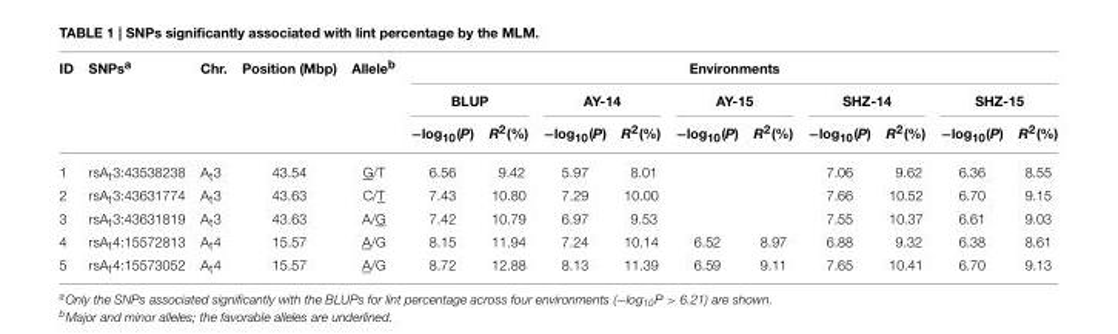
<table><thead><tr><td rowspan="3">ID</td><td rowspan="3">SNPs<sup>a</sup></td><td rowspan="3">Chr.</td><td rowspan="3">Position (Mbp)</td><td rowspan="3">Allele<sup>b</sup></td><td colspan="10">Environments</td></tr><tr><td colspan="2">BLUP</td><td colspan="2">AY-14</td><td colspan="2">AY-15</td><td colspan="2">SHZ-14</td><td colspan="2">SHZ-15</td></tr><tr><td>−log<sub>10</sub>(P)</td><td>R<sup>2</sup>(%)</td><td>−log<sub>10</sub>(P)</td><td>R<sup>2</sup>(%)</td><td>−log<sub>10</sub>(P)</td><td>R<sup>2</sup>(%)</td><td>−log<sub>10</sub>(P)</td><td>R<sup>2</sup>(%)</td><td>−log<sub>10</sub>(P)</td><td>R<sup>2</sup>(%)</td></tr></thead><tbody><tr><td>1</td><td>rsA<sub>t</sub>3:43538238</td><td>A<sub>t</sub>3</td><td>43.54</td><td>G/T</td><td>6.56</td><td>9.42</td><td>5.97</td><td>8.01</td><td></td><td></td><td>7.06</td><td>9.62</td><td>6.36</td><td>8.55</td></tr><tr><td>2</td><td>rsA<sub>t</sub>3:43631774</td><td>A<sub>t</sub>3</td><td>43.63</td><td>C/T</td><td>7.43</td><td>10.80</td><td>7.29</td><td>10.00</td><td></td><td></td><td>7.66</td><td>10.52</td><td>6.70</td><td>9.15</td></tr><tr><td>3</td><td>rsA<sub>t</sub>3:43631819</td><td>A<sub>t</sub>3</td><td>43.63</td><td>A/G</td><td>7.42</td><td>10.79</td><td>6.97</td><td>9.53</td><td></td><td></td><td>7.55</td><td>10.37</td><td>6.61</td><td>9.03</td></tr><tr><td>4</td><td>rsA<sub>t</sub>4:15572813</td><td>A<sub>t</sub>4</td><td>15.57</td><td>A/G</td><td>8.15</td><td>11.94</td><td>7.24</td><td>10.14</td><td>6.52</td><td>8.97</td><td>6.88</td><td>9.32</td><td>6.38</td><td>8.61</td></tr><tr><td>5</td><td>rsA<sub>t</sub>4:15573052</td><td>A<sub>t</sub>4</td><td>15.57</td><td>A/G</td><td>8.72</td><td>12.88</td><td>8.13</td><td>11.39</td><td>6.59</td><td>9.11</td><td>7.65</td><td>10.41</td><td>6.70</td><td>9.13</td></tr></tbody></table>